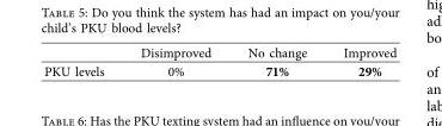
<table><thead><tr><td></td><td>Disimproved</td><td>No change</td><td>Improved</td></tr></thead><tbody><tr><td>PKU levels</td><td>0%</td><td>71%</td><td>29%</td></tr></tbody></table>